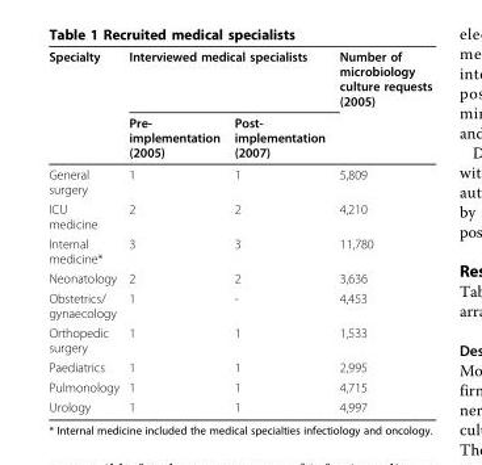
<table><thead><tr><td rowspan="2">Specialty</td><td colspan="2">Interviewed medical specialists</td><td rowspan="2">Number of microbiology culture requests (2005)</td></tr><tr><td>Pre- implementation (2005)</td><td>Post- implementation (2007)</td></tr></thead><tbody><tr><td>General surgery</td><td>1</td><td>1</td><td>5,809</td></tr><tr><td>ICU medicine</td><td>2</td><td>2</td><td>4,210</td></tr><tr><td>Internal medicine*</td><td>3</td><td>3</td><td>11,780</td></tr><tr><td>Neonatology</td><td>2</td><td>2</td><td>3,636</td></tr><tr><td>Obstetrics/ gynaecology</td><td>1</td><td>-</td><td>4,453</td></tr><tr><td>Orthopedic surgery</td><td>1</td><td>1</td><td>1,533</td></tr><tr><td>Paediatrics</td><td>1</td><td>1</td><td>2,995</td></tr><tr><td>Pulmonology</td><td>1</td><td>1</td><td>4,715</td></tr><tr><td>Urology</td><td>1</td><td>1</td><td>4,997</td></tr></tbody></table>